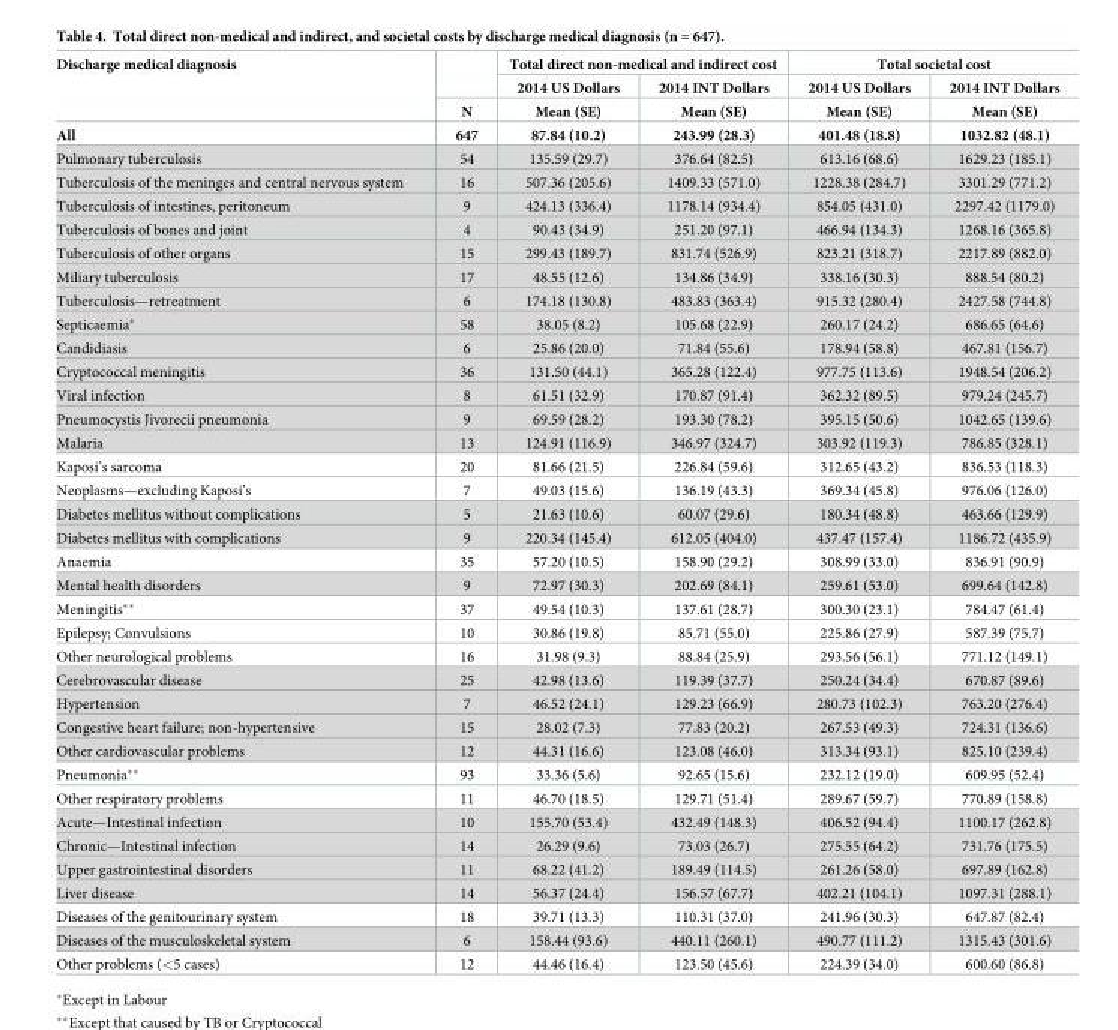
<table><thead><tr><td rowspan="3">Discharge medical diagnosis</td><td rowspan="3">N</td><td colspan="2">Total direct non-medical and indirect cost</td><td colspan="2">Total societal cost</td></tr><tr><td rowspan="2">2014 US Dollars Mean (SE)</td><td rowspan="2">2014 INT Dollars Mean (SE)</td><td rowspan="2">2014 US Dollars Mean (SE)</td><td rowspan="2">2014 INT Dollars Mean (SE)</td></tr><tr></tr></thead><tbody><tr><td>All</td><td>647</td><td>87.84 (10.2)</td><td>243.99 (28.3)</td><td>401.48 (18.8)</td><td>1032.82 (48.1)</td></tr><tr><td>Pulmonary tuberculosis</td><td>54</td><td>135.59 (29.7)</td><td>376.64 (82.5)</td><td>613.16 (68.6)</td><td>1629.23 (185.1)</td></tr><tr><td>Tuberculosis of the meninges and central nervous system</td><td>16</td><td>507.36 (205.6)</td><td>1409.33 (571.0)</td><td>1228.38 (284.7)</td><td>3301.29 (771.2)</td></tr><tr><td>Tuberculosis of intestines, peritoneum</td><td>9</td><td>424.13 (336.4)</td><td>1178.14 (934.4)</td><td>854.05 (431.0)</td><td>2297.42 (1179.0)</td></tr><tr><td>Tuberculosis of bones and joint</td><td>4</td><td>90.43 (34.9)</td><td>251.20 (97.1)</td><td>466.94 (134.3)</td><td>1268.16 (365.8)</td></tr><tr><td>Tuberculosis of other organs</td><td>15</td><td>299.43 (189.7)</td><td>831.74 (526.9)</td><td>823.21 (318.7)</td><td>2217.89 (882.0)</td></tr><tr><td>Miliary tuberculosis</td><td>17</td><td>48.55 (12.6)</td><td>134.86 (34.9)</td><td>338.16 (30.3)</td><td>888.54 (80.2)</td></tr><tr><td>Tuberculosis—retreatment</td><td>6</td><td>174.18 (130.8)</td><td>483.83 (363.4)</td><td>915.32 (280.4)</td><td>2427.58 (744.8)</td></tr><tr><td>Septicaemia*</td><td>58</td><td>38.05 (8.2)</td><td>105.68 (22.9)</td><td>260.17 (24.2)</td><td>686.65 (64.6)</td></tr><tr><td>Candidiasis</td><td>6</td><td>25.86 (20.0)</td><td>71.84 (55.6)</td><td>178.94 (58.8)</td><td>467.81 (156.7)</td></tr><tr><td>Cryptococcal meningitis</td><td>36</td><td>131.50 (44.1)</td><td>365.28 (122.4)</td><td>977.75 (113.6)</td><td>1948.54 (206.2)</td></tr><tr><td>Viral infection</td><td>8</td><td>61.51 (32.9)</td><td>170.87 (91.4)</td><td>362.32 (89.5)</td><td>979.24 (245.7)</td></tr><tr><td>Pneumocystis Jivorecii pneumonia</td><td>9</td><td>69.59 (28.2)</td><td>193.30 (78.2)</td><td>395.15 (50.6)</td><td>1042.65 (139.6)</td></tr><tr><td>Malaria</td><td>13</td><td>124.91 (116.9)</td><td>346.97 (324.7)</td><td>303.92 (119.3)</td><td>786.85 (328.1)</td></tr><tr><td>Kaposi’s sarcoma</td><td>20</td><td>81.66 (21.5)</td><td>226.84 (59.6)</td><td>312.65 (43.2)</td><td>836.53 (118.3)</td></tr><tr><td>Neoplasms—excluding Kaposi’s</td><td>7</td><td>49.03 (15.6)</td><td>136.19 (43.3)</td><td>369.34 (45.8)</td><td>976.06 (126.0)</td></tr><tr><td>Diabetes mellitus without complications</td><td>5</td><td>21.63 (10.6)</td><td>60.07 (29.6)</td><td>180.34 (48.8)</td><td>463.66 (129.9)</td></tr><tr><td>Diabetes mellitus with complications</td><td>9</td><td>220.34 (145.4)</td><td>612.05 (404.0)</td><td>437.47 (157.4)</td><td>1186.72 (435.9)</td></tr><tr><td>Anaemia</td><td>35</td><td>57.20 (10.5)</td><td>158.90 (29.2)</td><td>308.99 (33.0)</td><td>836.91 (90.9)</td></tr><tr><td>Mental health disorders</td><td>9</td><td>72.97 (30.3)</td><td>202.69 (84.1)</td><td>259.61 (53.0)</td><td>699.64 (142.8)</td></tr><tr><td>Meningitis**</td><td>37</td><td>49.54 (10.3)</td><td>137.61 (28.7)</td><td>300.30 (23.1)</td><td>784.47 (61.4)</td></tr><tr><td>Epilepsy; Convulsions</td><td>10</td><td>30.86 (19.8)</td><td>85.71 (55.0)</td><td>225.86 (27.9)</td><td>587.39 (75.7)</td></tr><tr><td>Other neurological problems</td><td>16</td><td>31.98 (9.3)</td><td>88.84 (25.9)</td><td>293.56 (56.1)</td><td>771.12 (149.1)</td></tr><tr><td>Cerebrovascular disease</td><td>25</td><td>42.98 (13.6)</td><td>119.39 (37.7)</td><td>250.24 (34.4)</td><td>670.87 (89.6)</td></tr><tr><td>Hypertension</td><td>7</td><td>46.52 (24.1)</td><td>129.23 (66.9)</td><td>280.73 (102.3)</td><td>763.20 (276.4)</td></tr><tr><td>Congestive heart failure; non-hypertensive</td><td>15</td><td>28.02 (7.3)</td><td>77.83 (20.2)</td><td>267.53 (49.3)</td><td>724.31 (136.6)</td></tr><tr><td>Other cardiovascular problems</td><td>12</td><td>44.31 (16.6)</td><td>123.08 (46.0)</td><td>313.34 (93.1)</td><td>825.10 (239.4)</td></tr><tr><td>Pneumonia**</td><td>93</td><td>33.36 (5.6)</td><td>92.65 (15.6)</td><td>232.12 (19.0)</td><td>609.95 (52.4)</td></tr><tr><td>Other respiratory problems</td><td>11</td><td>46.70 (18.5)</td><td>129.71 (51.4)</td><td>289.67 (59.7)</td><td>770.89 (158.8)</td></tr><tr><td>Acute—Intestinal infection</td><td>10</td><td>155.70 (53.4)</td><td>432.49 (148.3)</td><td>406.52 (94.4)</td><td>1100.17 (262.8)</td></tr><tr><td>Chronic—Intestinal infection</td><td>14</td><td>26.29 (9.6)</td><td>73.03 (26.7)</td><td>275.55 (64.2)</td><td>731.76 (175.5)</td></tr><tr><td>Upper gastrointestinal disorders</td><td>11</td><td>68.22 (41.2)</td><td>189.49 (114.5)</td><td>261.26 (58.0)</td><td>697.89 (162.8)</td></tr><tr><td>Liver disease</td><td>14</td><td>56.37 (24.4)</td><td>156.57 (67.7)</td><td>402.21 (104.1)</td><td>1097.31 (288.1)</td></tr><tr><td>Diseases of the genitourinary system</td><td>18</td><td>39.71 (13.3)</td><td>110.31 (37.0)</td><td>241.96 (30.3)</td><td>647.87 (82.4)</td></tr><tr><td>Diseases of the musculoskeletal system</td><td>6</td><td>158.44 (93.6)</td><td>440.11 (260.1)</td><td>490.77 (111.2)</td><td>1315.43 (301.6)</td></tr><tr><td>Other problems (&lt;5 cases)</td><td>12</td><td>44.46 (16.4)</td><td>123.50 (45.6)</td><td>224.39 (34.0)</td><td>600.60 (86.8)</td></tr></tbody></table>